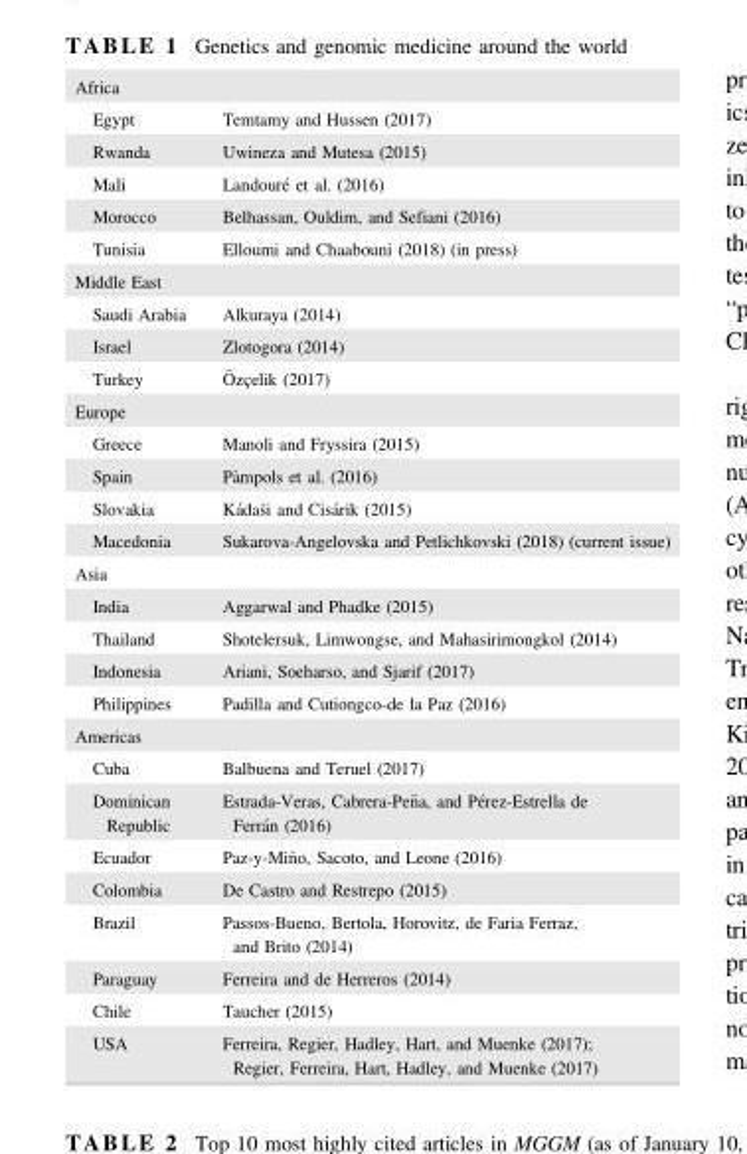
<table><tbody><tr><td colspan="2">Africa</td></tr><tr><td>Egypt</td><td>Temtamy and Hussen (2017)</td></tr><tr><td>Rwanda</td><td>Uwineza and Mutesa (2015)</td></tr><tr><td>Mali</td><td>Landour�e et al. (2016)</td></tr><tr><td>Morocco</td><td>Belhassan, Ouldim, and Sefiani (2016)</td></tr><tr><td>Tunisia</td><td>Elloumi and Chaabouni (2018) (in press)</td></tr><tr><td colspan="2">Middle East</td></tr><tr><td>Saudi Arabia</td><td>Alkuraya (2014)</td></tr><tr><td>Israel</td><td>Zlotogora (2014)</td></tr><tr><td>Turkey</td><td>€Ozc�elik (2017)</td></tr><tr><td colspan="2">Europe</td></tr><tr><td>Greece</td><td>Manoli and Fryssira (2015)</td></tr><tr><td>Spain</td><td>P�ampols et al. (2016)</td></tr><tr><td>Slovakia</td><td>K�ada�si and Cis�arik (2015)</td></tr><tr><td>Macedonia</td><td>Sukarova-Angelovska and Petlichkovski (2018) (current issue)</td></tr><tr><td colspan="2">Asia</td></tr><tr><td>India</td><td>Aggarwal and Phadke (2015)</td></tr><tr><td>Thailand</td><td>Shotelersuk, Limwongse, and Mahasirimongkol (2014)</td></tr><tr><td>Indonesia</td><td>Ariani, Soeharso, and Sjarif (2017)</td></tr><tr><td>Philippines</td><td>Padilla and Cutiongco-de la Paz (2016)</td></tr><tr><td colspan="2">Americas</td></tr><tr><td>Cuba</td><td>Balbuena and Teruel (2017)</td></tr><tr><td>Dominican Republic</td><td>Estrada-Veras, Cabrera-Pe~na, and P�erez-Estrella de Ferr�an (2016)</td></tr><tr><td>Ecuador</td><td>Paz-y-Mi~no, Sacoto, and Leone (2016)</td></tr><tr><td>Colombia</td><td>De Castro and Restrepo (2015)</td></tr><tr><td>Brazil</td><td>Passos-Bueno, Bertola, Horovitz, de Faria Ferraz, and Brito (2014)</td></tr><tr><td>Paraguay</td><td>Ferreira and de Herreros (2014)</td></tr><tr><td>Chile</td><td>Taucher (2015)</td></tr><tr><td>USA</td><td>Ferreira, Regier, Hadley, Hart, and Muenke (2017); Regier, Ferreira, Hart, Hadley, and Muenke (2017)</td></tr></tbody></table>